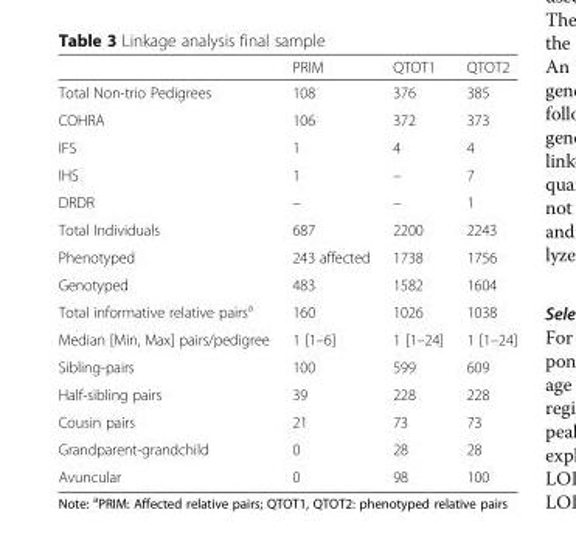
<table><thead><tr><td></td><td>PRIM</td><td>QTOT1</td><td>QTOT2</td></tr></thead><tbody><tr><td>Total Non-trio Pedigrees</td><td>108</td><td>376</td><td>385</td></tr><tr><td>COHRA</td><td>106</td><td>372</td><td>373</td></tr><tr><td>IFS</td><td>1</td><td>4</td><td>4</td></tr><tr><td>IHS</td><td>1</td><td>–</td><td>7</td></tr><tr><td>DRDR</td><td>–</td><td>–</td><td>1</td></tr><tr><td>Total Individuals</td><td>687</td><td>2200</td><td>2243</td></tr><tr><td>Phenotyped</td><td>243 affected</td><td>1738</td><td>1756</td></tr><tr><td>Genotyped</td><td>483</td><td>1582</td><td>1604</td></tr><tr><td>Total informative relative pairs<sup>a</sup></td><td>160</td><td>1026</td><td>1038</td></tr><tr><td>Median [Min, Max] pairs/pedigree</td><td>1 [1–6]</td><td>1 [1–24]</td><td>1 [1–24]</td></tr><tr><td>Sibling-pairs</td><td>100</td><td>599</td><td>609</td></tr><tr><td>Half-sibling pairs</td><td>39</td><td>228</td><td>228</td></tr><tr><td>Cousin pairs</td><td>21</td><td>73</td><td>73</td></tr><tr><td>Grandparent-grandchild</td><td>0</td><td>28</td><td>28</td></tr><tr><td>Avuncular</td><td>0</td><td>98</td><td>100</td></tr></tbody></table>